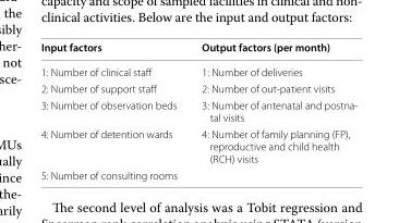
<table><thead><tr><td>Input factors</td><td>Output factors (per month)</td></tr></thead><tbody><tr><td>1: Number of clinical staff</td><td>1: Number of deliveries</td></tr><tr><td>2: Number of support staff</td><td>2: Number of out‑patient visits</td></tr><tr><td>3: Number of observation beds</td><td>3: Number of antenatal and postna‑ tal visits</td></tr><tr><td>4: Number of detention wards</td><td>4: Number of family planning (FP), reproductive and child health (RCH) visits</td></tr><tr><td>5: Number of consulting rooms</td><td></td></tr></tbody></table>